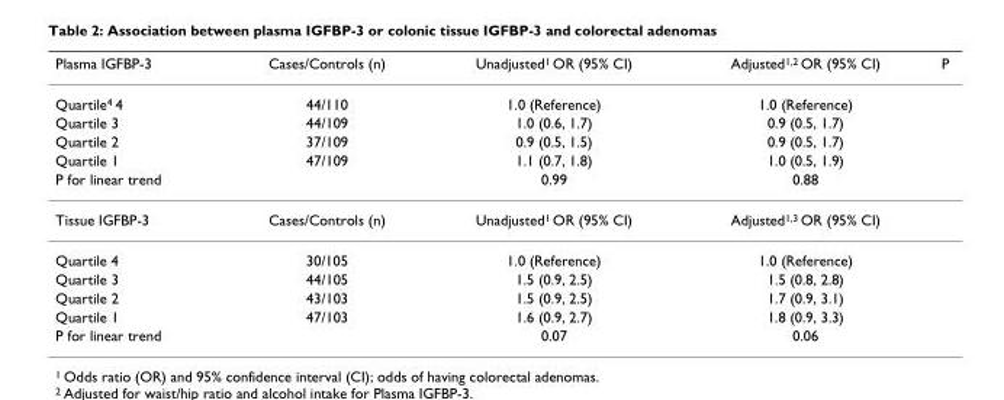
<table><thead><tr><td>Plasma IGFBP-3</td><td>Cases/Controls (n)</td><td>Unadjusted<sup>1</sup> OR (95% CI)</td><td>Adjusted<sup>1,2</sup> OR (95% CI)</td><td>P</td></tr></thead><tbody><tr><td>Quartile<sup>4</sup> 4</td><td>44/110</td><td>1.0 (Reference)</td><td>1.0 (Reference)</td><td></td></tr><tr><td>Quartile 3</td><td>44/109</td><td>1.0 (0.6, 1.7)</td><td>0.9 (0.5, 1.7)</td><td></td></tr><tr><td>Quartile 2</td><td>37/109</td><td>0.9 (0.5, 1.5)</td><td>0.9 (0.5, 1.7)</td><td></td></tr><tr><td>Quartile 1</td><td>47/109</td><td>1.1 (0.7, 1.8)</td><td>1.0 (0.5, 1.9)</td><td></td></tr><tr><td>P for linear trend</td><td></td><td>0.99</td><td>0.88</td><td></td></tr><tr><td>Tissue IGFBP-3</td><td>Cases/Controls (n)</td><td>Unadjusted<sup>1</sup> OR (95% CI)</td><td>Adjusted<sup>1,3</sup> OR (95% CI)</td><td></td></tr><tr><td>Quartile 4</td><td>30/105</td><td>1.0 (Reference)</td><td>1.0 (Reference)</td><td></td></tr><tr><td>Quartile 3</td><td>44/105</td><td>1.5 (0.9, 2.5)</td><td>1.5 (0.8, 2.8)</td><td></td></tr><tr><td>Quartile 2</td><td>43/103</td><td>1.5 (0.9, 2.5)</td><td>1.7 (0.9, 3.1)</td><td></td></tr><tr><td>Quartile 1</td><td>47/103</td><td>1.6 (0.9, 2.7)</td><td>1.8 (0.9, 3.3)</td><td></td></tr><tr><td>P for linear trend</td><td></td><td>0.07</td><td>0.06</td><td></td></tr></tbody></table>